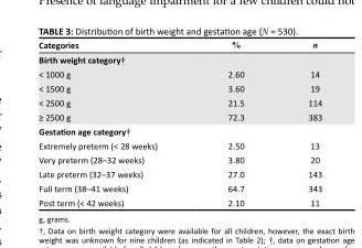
<table><thead><tr><td>Categories</td><td>%</td><td>n</td></tr></thead><tbody><tr><td colspan="3">Birth weight category†</td></tr><tr><td>&lt; 1000 g</td><td>2.60</td><td>14</td></tr><tr><td>&lt; 1500 g</td><td>3.60</td><td>19</td></tr><tr><td>&lt; 2500 g</td><td>21.5</td><td>114</td></tr><tr><td>≥ 2500 g</td><td>72.3</td><td>383</td></tr><tr><td colspan="3">Gestation age category†</td></tr><tr><td>Extremely preterm (&lt; 28 weeks)</td><td>2.50</td><td>13</td></tr><tr><td>Very preterm (28–32 weeks)</td><td>3.80</td><td>20</td></tr><tr><td>Late preterm (32–37 weeks)</td><td>27.0</td><td>143</td></tr><tr><td>Full term (38–41 weeks)</td><td>64.7</td><td>343</td></tr><tr><td>Post term (&lt; 42 weeks)</td><td>2.10</td><td>11</td></tr></tbody></table>